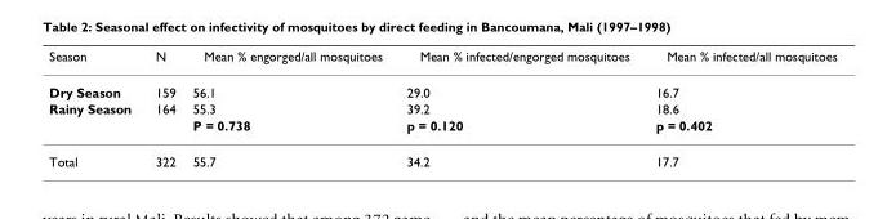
<table><thead><tr><td>Season</td><td>N</td><td>Mean % engorged/all mosquitoes</td><td>Mean % infected/engorged mosquitoes</td><td>Mean % infected/all mosquitoes</td></tr></thead><tbody><tr><td>Dry Season</td><td>159</td><td>56.1</td><td>29.0</td><td>16.7</td></tr><tr><td rowspan="2">Rainy Season</td><td>164</td><td>55.3</td><td>39.2</td><td>18.6</td></tr><tr><td></td><td>P = 0.738</td><td>p = 0.120</td><td>p = 0.402</td></tr><tr><td>Total</td><td>322</td><td>55.7</td><td>34.2</td><td>17.7</td></tr></tbody></table>